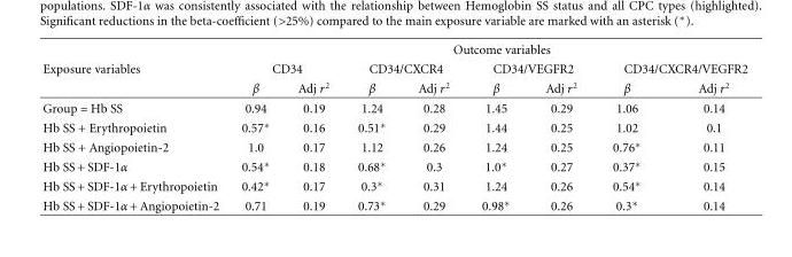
<table><thead><tr><td rowspan="3">Exposure variables</td><td colspan="8">Outcome variables</td></tr><tr><td colspan="2">CD34</td><td colspan="2">CD34/CXCR4</td><td colspan="2">CD34/VEGFR2</td><td colspan="2">CD34/CXCR4/VEGFR2</td></tr><tr><td>β</td><td>Adj r<sup>2</sup></td><td>β</td><td>Adj r<sup>2</sup></td><td>β</td><td>Adj r<sup>2</sup></td><td>β</td><td>Adj r<sup>2</sup></td></tr></thead><tbody><tr><td>Group = Hb SS</td><td>0.94</td><td>0.19</td><td>1.24</td><td>0.28</td><td>1.45</td><td>0.29</td><td>1.06</td><td>0.14</td></tr><tr><td>Hb SS + Erythropoietin</td><td>0.57∗</td><td>0.16</td><td>0.51∗</td><td>0.29</td><td>1.44</td><td>0.25</td><td>1.02</td><td>0.1</td></tr><tr><td>Hb SS + Angiopoietin-2</td><td>1.0</td><td>0.17</td><td>1.12</td><td>0.26</td><td>1.24</td><td>0.25</td><td>0.76∗</td><td>0.11</td></tr><tr><td>Hb SS + SDF-1α</td><td>0.54∗</td><td>0.18</td><td>0.68∗</td><td>0.3</td><td>1.0∗</td><td>0.27</td><td>0.37∗</td><td>0.15</td></tr><tr><td>Hb SS + SDF-1α + Erythropoietin</td><td>0.42∗</td><td>0.17</td><td>0.3∗</td><td>0.31</td><td>1.24</td><td>0.26</td><td>0.54∗</td><td>0.14</td></tr><tr><td>Hb SS + SDF-1α + Angiopoietin-2</td><td>0.71</td><td>0.19</td><td>0.73∗</td><td>0.29</td><td>0.98∗</td><td>0.26</td><td>0.3∗</td><td>0.14</td></tr></tbody></table>